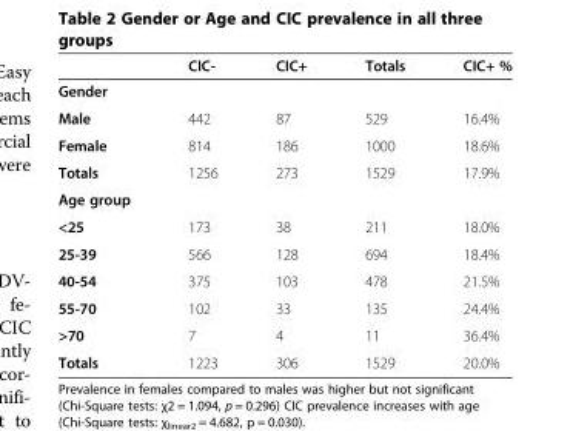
<table><thead><tr><td></td><td>CIC-</td><td>CIC+</td><td>Totals</td><td>CIC+ %</td></tr></thead><tbody><tr><td colspan="5">Gender</td></tr><tr><td>Male</td><td>442</td><td>87</td><td>529</td><td>16.4%</td></tr><tr><td>Female</td><td>814</td><td>186</td><td>1000</td><td>18.6%</td></tr><tr><td>Totals</td><td>1256</td><td>273</td><td>1529</td><td>17.9%</td></tr><tr><td colspan="5">Age group</td></tr><tr><td>&lt;25</td><td>173</td><td>38</td><td>211</td><td>18.0%</td></tr><tr><td>25-39</td><td>566</td><td>128</td><td>694</td><td>18.4%</td></tr><tr><td>40-54</td><td>375</td><td>103</td><td>478</td><td>21.5%</td></tr><tr><td>55-70</td><td>102</td><td>33</td><td>135</td><td>24.4%</td></tr><tr><td>&gt;70</td><td>7</td><td>4</td><td>11</td><td>36.4%</td></tr><tr><td>Totals</td><td>1223</td><td>306</td><td>1529</td><td>20.0%</td></tr></tbody></table>